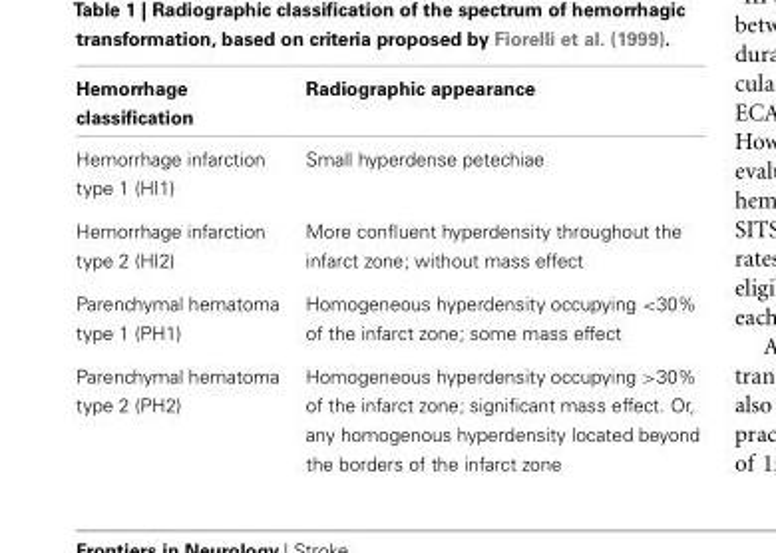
<table><thead><tr><td>Hemorrhage classification</td><td>Radiographic appearance</td></tr></thead><tbody><tr><td>Hemorrhage infarction type 1 (HI1)</td><td>Small hyperdense petechiae</td></tr><tr><td>Hemorrhage infarction type 2 (HI2)</td><td>More confluent hyperdensity throughout the infarct zone; without mass effect</td></tr><tr><td>Parenchymal hematoma type 1 (PH1)</td><td>Homogeneous hyperdensity occupying &lt;30% of the infarct zone; some mass effect</td></tr><tr><td>Parenchymal hematoma type 2 (PH2)</td><td>Homogeneous hyperdensity occupying &gt;30% of the infarct zone; significant mass effect. Or, any homogenous hyperdensity located beyond the borders of the infarct zone</td></tr></tbody></table>